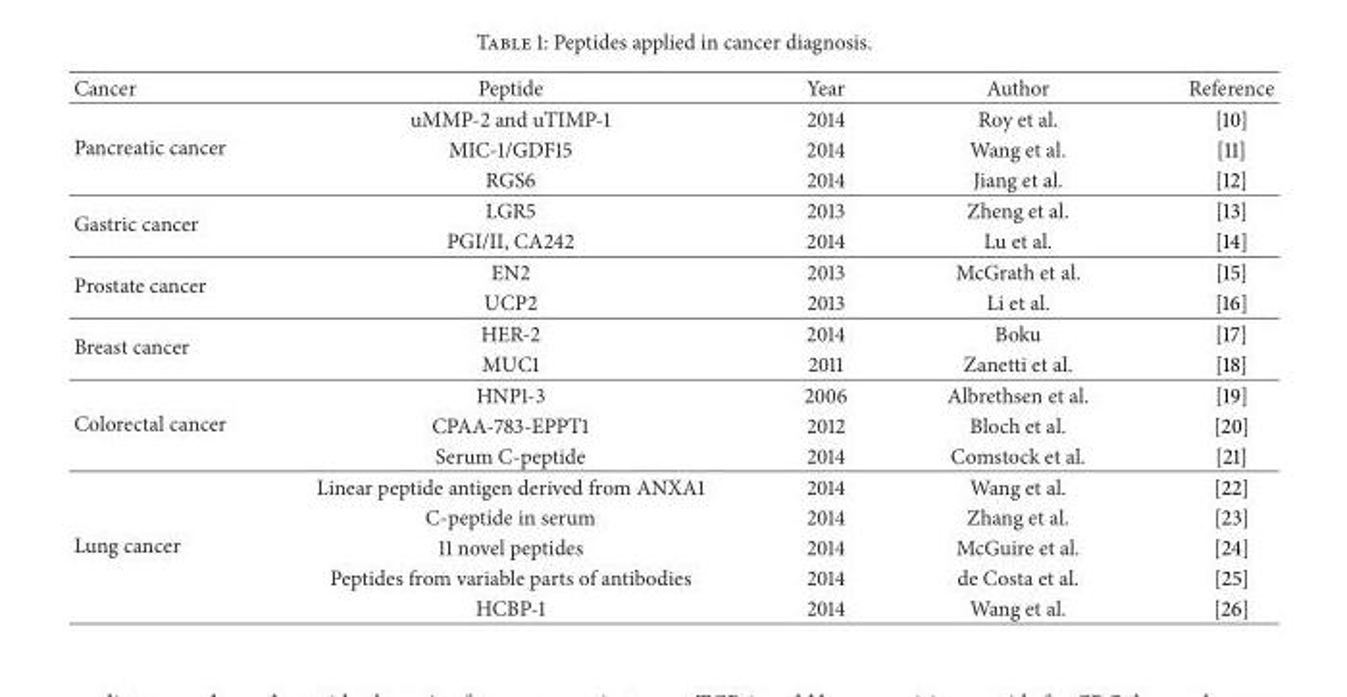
<table><thead><tr><td>Cancer</td><td>Peptide</td><td>Year</td><td>Author</td><td>Reference</td></tr></thead><tbody><tr><td rowspan="3">Pancreatic cancer</td><td>uMMP-2 and uTIMP-1</td><td>2014</td><td>Roy et al.</td><td>[10]</td></tr><tr><td>MIC-1/GDF15</td><td>2014</td><td>Wang et al.</td><td>[11]</td></tr><tr><td>RGS6</td><td>2014</td><td>Jiang et al.</td><td>[12]</td></tr><tr><td rowspan="2">Gastric cancer</td><td>LGR5</td><td>2013</td><td>Zheng et al.</td><td>[13]</td></tr><tr><td>PGI/II, CA242</td><td>2014</td><td>Lu et al.</td><td>[14]</td></tr><tr><td rowspan="2">Prostate cancer</td><td>EN2</td><td>2013</td><td>McGrath et al.</td><td>[15]</td></tr><tr><td>UCP2</td><td>2013</td><td>Li et al.</td><td>[16]</td></tr><tr><td rowspan="2">Breast cancer</td><td>HER-2</td><td>2014</td><td>Boku</td><td>[17]</td></tr><tr><td>MUC1</td><td>2011</td><td>Zanetti et al.</td><td>[18]</td></tr><tr><td rowspan="3">Colorectal cancer</td><td>HNP1-3</td><td>2006</td><td>Albrethsen et al.</td><td>[19]</td></tr><tr><td>CPAA-783-EPPT1</td><td>2012</td><td>Bloch et al.</td><td>[20]</td></tr><tr><td>Serum C-peptide</td><td>2014</td><td>Comstock et al.</td><td>[21]</td></tr><tr><td rowspan="5">Lung cancer</td><td>Linear peptide antigen derived from ANXA1</td><td>2014</td><td>Wang et al.</td><td>[22]</td></tr><tr><td>C-peptide in serum</td><td>2014</td><td>Zhang et al.</td><td>[23]</td></tr><tr><td>11 novel peptides</td><td>2014</td><td>McGuire et al.</td><td>[24]</td></tr><tr><td>Peptides from variable parts of antibodies</td><td>2014</td><td>de Costa et al.</td><td>[25]</td></tr><tr><td>HCBP-1</td><td>2014</td><td>Wang et al.</td><td>[26]</td></tr></tbody></table>